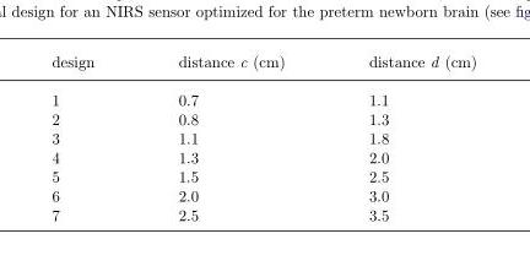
<table><thead><tr><td>design</td><td>distance c (cm)</td><td>distance d (cm)</td></tr></thead><tbody><tr><td>1</td><td>0.7</td><td>1.1</td></tr><tr><td>2</td><td>0.8</td><td>1.3</td></tr><tr><td>3</td><td>1.1</td><td>1.8</td></tr><tr><td>4</td><td>1.3</td><td>2.0</td></tr><tr><td>5</td><td>1.5</td><td>2.5</td></tr><tr><td>6</td><td>2.0</td><td>3.0</td></tr><tr><td>7</td><td>2.5</td><td>3.5</td></tr></tbody></table>